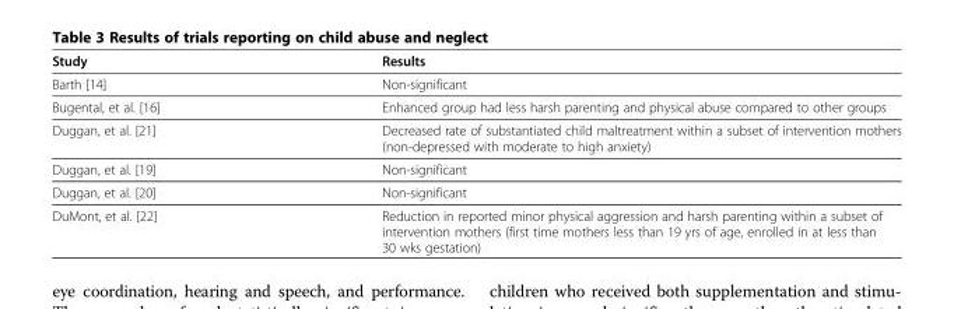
<table><thead><tr><td>Study</td><td>Results</td></tr></thead><tbody><tr><td>Barth [14]</td><td>Non-significant</td></tr><tr><td>Bugental, et al. [16]</td><td>Enhanced group had less harsh parenting and physical abuse compared to other groups</td></tr><tr><td>Duggan, et al. [21]</td><td>Decreased rate of substantiated child maltreatment within a subset of intervention mothers (non-depressed with moderate to high anxiety)</td></tr><tr><td>Duggan, et al. [19]</td><td>Non-significant</td></tr><tr><td>Duggan, et al. [20]</td><td>Non-significant</td></tr><tr><td>DuMont, et al. [22]</td><td>Reduction in reported minor physical aggression and harsh parenting within a subset of intervention mothers (first time mothers less than 19 yrs of age, enrolled in at less than 30 wks gestation)</td></tr></tbody></table>